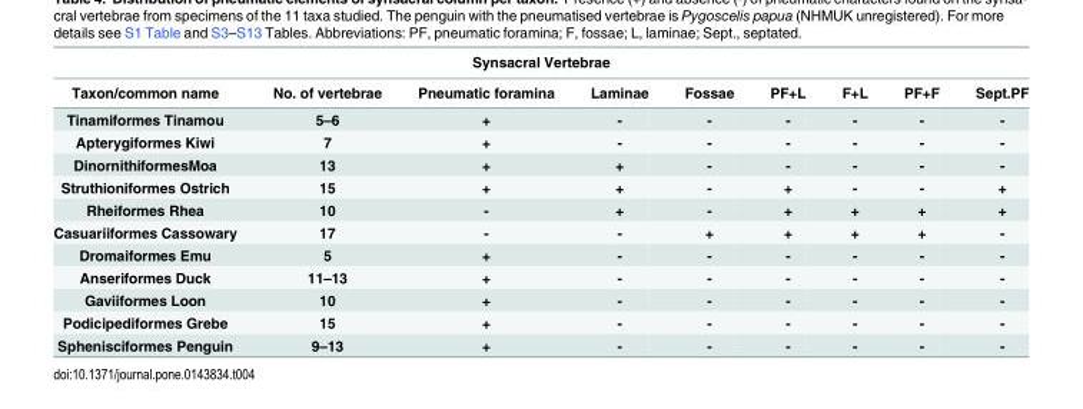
<table><thead><tr><td colspan="9">Synsacral Vertebrae</td></tr><tr><td>Taxon/common name</td><td>No. of vertebrae</td><td>Pneumatic foramina</td><td>Laminae</td><td>Fossae</td><td>PF+L</td><td>F+L</td><td>PF+F</td><td>Sept.PF</td></tr></thead><tbody><tr><td>Tinamiformes Tinamou</td><td>5–6</td><td>+</td><td>-</td><td>-</td><td>-</td><td>-</td><td>-</td><td>-</td></tr><tr><td>Apterygiformes Kiwi</td><td>7</td><td>+</td><td>-</td><td>-</td><td>-</td><td>-</td><td>-</td><td>-</td></tr><tr><td>DinornithiformesMoa</td><td>13</td><td>+</td><td>+</td><td>-</td><td>-</td><td>-</td><td>-</td><td>-</td></tr><tr><td>Struthioniformes Ostrich</td><td>15</td><td>+</td><td>+</td><td>-</td><td>+</td><td>-</td><td>-</td><td>+</td></tr><tr><td>Rheiformes Rhea</td><td>10</td><td>-</td><td>+</td><td>-</td><td>+</td><td>+</td><td>+</td><td>+</td></tr><tr><td>Casuariiformes Cassowary</td><td>17</td><td>-</td><td>-</td><td>+</td><td>+</td><td>+</td><td>+</td><td>-</td></tr><tr><td>Dromaiformes Emu</td><td>5</td><td>+</td><td>-</td><td>-</td><td>-</td><td>-</td><td>-</td><td>-</td></tr><tr><td>Anseriformes Duck</td><td>11–13</td><td>+</td><td>-</td><td>-</td><td>-</td><td>-</td><td>-</td><td>-</td></tr><tr><td>Gaviiformes Loon</td><td>10</td><td>+</td><td>-</td><td>-</td><td>-</td><td>-</td><td>-</td><td>-</td></tr><tr><td>Podicipediformes Grebe</td><td>15</td><td>+</td><td>-</td><td>-</td><td>-</td><td>-</td><td>-</td><td>-</td></tr><tr><td>Sphenisciformes Penguin</td><td>9–13</td><td>+</td><td>-</td><td>-</td><td>-</td><td>-</td><td>-</td><td>-</td></tr></tbody></table>